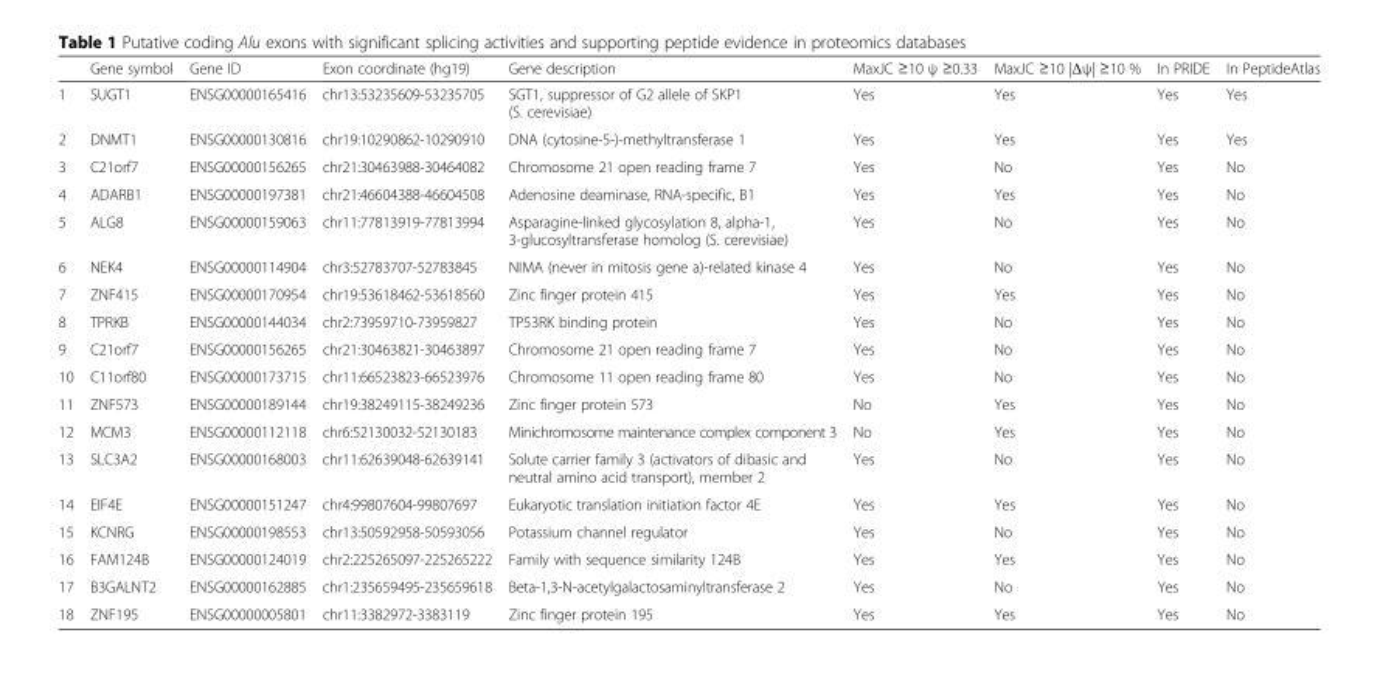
<table><thead><tr><td></td><td>Gene symbol</td><td>Gene ID</td><td>Exon coordinate (hg19)</td><td>Gene description</td><td>MaxJC ≥10 ψ ≥0.33</td><td>MaxJC ≥10 |Δψ| ≥10 %</td><td>In PRIDE</td><td>In PeptideAtlas</td></tr></thead><tbody><tr><td>1</td><td>SUGT1</td><td>ENSG00000165416</td><td>chr13:53235609-53235705</td><td>SGT1, suppressor of G2 allele of SKP1 (S. cerevisiae)</td><td>Yes</td><td>Yes</td><td>Yes</td><td>Yes</td></tr><tr><td>2</td><td>DNMT1</td><td>ENSG00000130816</td><td>chr19:10290862-10290910</td><td>DNA (cytosine-5-)-methyltransferase 1</td><td>Yes</td><td>Yes</td><td>Yes</td><td>Yes</td></tr><tr><td>3</td><td>C21orf7</td><td>ENSG00000156265</td><td>chr21:30463988-30464082</td><td>Chromosome 21 open reading frame 7</td><td>Yes</td><td>No</td><td>Yes</td><td>No</td></tr><tr><td>4</td><td>ADARB1</td><td>ENSG00000197381</td><td>chr21:46604388-46604508</td><td>Adenosine deaminase, RNA-specific, B1</td><td>Yes</td><td>Yes</td><td>Yes</td><td>No</td></tr><tr><td>5</td><td>ALG8</td><td>ENSG00000159063</td><td>chr11:77813919-77813994</td><td>Asparagine-linked glycosylation 8, alpha-1, 3-glucosyltransferase homolog (S. cerevisiae)</td><td>Yes</td><td>No</td><td>Yes</td><td>No</td></tr><tr><td>6</td><td>NEK4</td><td>ENSG00000114904</td><td>chr3:52783707-52783845</td><td>NIMA (never in mitosis gene a)-related kinase 4</td><td>Yes</td><td>No</td><td>Yes</td><td>No</td></tr><tr><td>7</td><td>ZNF415</td><td>ENSG00000170954</td><td>chr19:53618462-53618560</td><td>Zinc finger protein 415</td><td>Yes</td><td>Yes</td><td>Yes</td><td>No</td></tr><tr><td>8</td><td>TPRKB</td><td>ENSG00000144034</td><td>chr2:73959710-73959827</td><td>TP53RK binding protein</td><td>Yes</td><td>No</td><td>Yes</td><td>No</td></tr><tr><td>9</td><td>C21orf7</td><td>ENSG00000156265</td><td>chr21:30463821-30463897</td><td>Chromosome 21 open reading frame 7</td><td>Yes</td><td>No</td><td>Yes</td><td>No</td></tr><tr><td>10</td><td>C11orf80</td><td>ENSG00000173715</td><td>chr11:66523823-66523976</td><td>Chromosome 11 open reading frame 80</td><td>Yes</td><td>No</td><td>Yes</td><td>No</td></tr><tr><td>11</td><td>ZNF573</td><td>ENSG00000189144</td><td>chr19:38249115-38249236</td><td>Zinc finger protein 573</td><td>No</td><td>Yes</td><td>Yes</td><td>No</td></tr><tr><td>12</td><td>MCM3</td><td>ENSG00000112118</td><td>chr6:52130032-52130183</td><td>Minichromosome maintenance complex component 3</td><td>No</td><td>Yes</td><td>Yes</td><td>No</td></tr><tr><td>13</td><td>SLC3A2</td><td>ENSG00000168003</td><td>chr11:62639048-62639141</td><td>Solute carrier family 3 (activators of dibasic and neutral amino acid transport), member 2</td><td>Yes</td><td>No</td><td>Yes</td><td>No</td></tr><tr><td>14</td><td>EIF4E</td><td>ENSG00000151247</td><td>chr4:99807604-99807697</td><td>Eukaryotic translation initiation factor 4E</td><td>Yes</td><td>Yes</td><td>Yes</td><td>No</td></tr><tr><td>15</td><td>KCNRG</td><td>ENSG00000198553</td><td>chr13:50592958-50593056</td><td>Potassium channel regulator</td><td>Yes</td><td>No</td><td>Yes</td><td>No</td></tr><tr><td>16</td><td>FAM124B</td><td>ENSG00000124019</td><td>chr2:225265097-225265222</td><td>Family with sequence similarity 124B</td><td>Yes</td><td>Yes</td><td>Yes</td><td>No</td></tr><tr><td>17</td><td>B3GALNT2</td><td>ENSG00000162885</td><td>chr1:235659495-235659618</td><td>Beta-1,3-N-acetylgalactosaminyltransferase 2</td><td>Yes</td><td>No</td><td>Yes</td><td>No</td></tr><tr><td>18</td><td>ZNF195</td><td>ENSG00000005801</td><td>chr11:3382972-3383119</td><td>Zinc finger protein 195</td><td>Yes</td><td>Yes</td><td>Yes</td><td>No</td></tr></tbody></table>